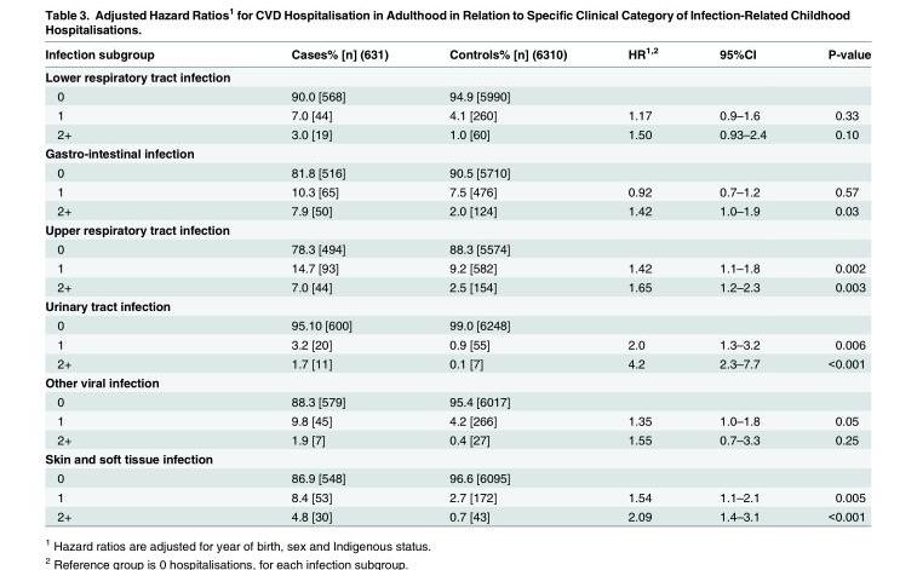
<table><thead><tr><td>Infection subgroup</td><td>Cases% [n] (631)</td><td>Controls% [n] (6310)</td><td>HR<sup>1,2</sup></td><td>95%CI</td><td>P-value</td></tr></thead><tbody><tr><td colspan="6">Lower respiratory tract infection</td></tr><tr><td>0</td><td>90.0 [568]</td><td>94.9 [5990]</td><td></td><td></td><td></td></tr><tr><td>1</td><td>7.0 [44]</td><td>4.1 [260]</td><td>1.17</td><td>0.9–1.6</td><td>0.33</td></tr><tr><td>2+</td><td>3.0 [19]</td><td>1.0 [60]</td><td>1.50</td><td>0.93–2.4</td><td>0.10</td></tr><tr><td colspan="6">Gastro-intestinal infection</td></tr><tr><td>0</td><td>81.8 [516]</td><td>90.5 [5710]</td><td></td><td></td><td></td></tr><tr><td>1</td><td>10.3 [65]</td><td>7.5 [476]</td><td>0.92</td><td>0.7–1.2</td><td>0.57</td></tr><tr><td>2+</td><td>7.9 [50]</td><td>2.0 [124]</td><td>1.42</td><td>1.0–1.9</td><td>0.03</td></tr><tr><td colspan="6">Upper respiratory tract infection</td></tr><tr><td>0</td><td>78.3 [494]</td><td>88.3 [5574]</td><td></td><td></td><td></td></tr><tr><td>1</td><td>14.7 [93]</td><td>9.2 [582]</td><td>1.42</td><td>1.1–1.8</td><td>0.002</td></tr><tr><td>2+</td><td>7.0 [44]</td><td>2.5 [154]</td><td>1.65</td><td>1.2–2.3</td><td>0.003</td></tr><tr><td colspan="6">Urinary tract infection</td></tr><tr><td>0</td><td>95.10 [600]</td><td>99.0 [6248]</td><td></td><td></td><td></td></tr><tr><td>1</td><td>3.2 [20]</td><td>0.9 [55]</td><td>2.0</td><td>1.3–3.2</td><td>0.006</td></tr><tr><td>2+</td><td>1.7 [11]</td><td>0.1 [7]</td><td>4.2</td><td>2.3–7.7</td><td>&lt;0.001</td></tr><tr><td colspan="6">Other viral infection</td></tr><tr><td>0</td><td>88.3 [579]</td><td>95.4 [6017]</td><td></td><td></td><td></td></tr><tr><td>1</td><td>9.8 [45]</td><td>4.2 [266]</td><td>1.35</td><td>1.0–1.8</td><td>0.05</td></tr><tr><td>2+</td><td>1.9 [7]</td><td>0.4 [27]</td><td>1.55</td><td>0.7–3.3</td><td>0.25</td></tr><tr><td colspan="6">Skin and soft tissue infection</td></tr><tr><td>0</td><td>86.9 [548]</td><td>96.6 [6095]</td><td></td><td></td><td></td></tr><tr><td>1</td><td>8.4 [53]</td><td>2.7 [172]</td><td>1.54</td><td>1.1–2.1</td><td>0.005</td></tr><tr><td>2+</td><td>4.8 [30]</td><td>0.7 [43]</td><td>2.09</td><td>1.4–3.1</td><td>&lt;0.001</td></tr></tbody></table>